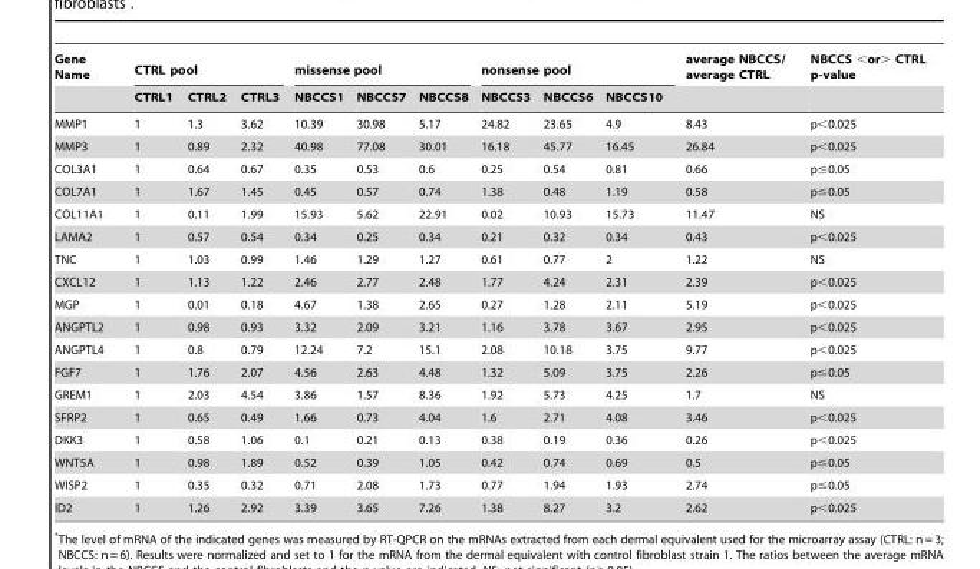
<table><thead><tr><td rowspan="2">Gene Name</td><td colspan="3">CTRL pool</td><td colspan="3">missense pool</td><td colspan="3">nonsense pool</td><td rowspan="2">average NBCCS/ average CTRL</td><td rowspan="2">NBCCS &lt;or&gt; CTRL p-value</td></tr><tr><td>CTRL1</td><td>CTRL2</td><td>CTRL3</td><td>NBCCS1</td><td>NBCCS7</td><td>NBCCS8</td><td>NBCCS3</td><td>NBCCS6</td><td>NBCCS10</td></tr></thead><tbody><tr><td>MMP1</td><td>1</td><td>1.3</td><td>3.62</td><td>10.39</td><td>30.98</td><td>5.17</td><td>24.82</td><td>23.65</td><td>4.9</td><td>8.43</td><td>p&lt;0.025</td></tr><tr><td>MMP3</td><td>1</td><td>0.89</td><td>2.32</td><td>40.98</td><td>77.08</td><td>30.01</td><td>16.18</td><td>45.77</td><td>16.45</td><td>26.84</td><td>p&lt;0.025</td></tr><tr><td>COL3A1</td><td>1</td><td>0.64</td><td>0.67</td><td>0.35</td><td>0.53</td><td>0.6</td><td>0.25</td><td>0.54</td><td>0.81</td><td>0.66</td><td>p≤0.05</td></tr><tr><td>COL7A1</td><td>1</td><td>1.67</td><td>1.45</td><td>0.45</td><td>0.57</td><td>0.74</td><td>1.38</td><td>0.48</td><td>1.19</td><td>0.58</td><td>p≤0.05</td></tr><tr><td>COL11A1</td><td>1</td><td>0.11</td><td>1.99</td><td>15.93</td><td>5.62</td><td>22.91</td><td>0.02</td><td>10.93</td><td>15.73</td><td>11.47</td><td>NS</td></tr><tr><td>LAMA2</td><td>1</td><td>0.57</td><td>0.54</td><td>0.34</td><td>0.25</td><td>0.34</td><td>0.21</td><td>0.32</td><td>0.34</td><td>0.43</td><td>p&lt;0.025</td></tr><tr><td>TNC</td><td>1</td><td>1.03</td><td>0.99</td><td>1.46</td><td>1.29</td><td>1.27</td><td>0.61</td><td>0.77</td><td>2</td><td>1.22</td><td>NS</td></tr><tr><td>CXCL12</td><td>1</td><td>1.13</td><td>1.22</td><td>2.46</td><td>2.77</td><td>2.48</td><td>1.77</td><td>4.24</td><td>2.31</td><td>2.39</td><td>p&lt;0.025</td></tr><tr><td>MGP</td><td>1</td><td>0.01</td><td>0.18</td><td>4.67</td><td>1.38</td><td>2.65</td><td>0.27</td><td>1.28</td><td>2.11</td><td>5.19</td><td>p&lt;0.025</td></tr><tr><td>ANGPTL2</td><td>1</td><td>0.98</td><td>0.93</td><td>3.32</td><td>2.09</td><td>3.21</td><td>1.16</td><td>3.78</td><td>3.67</td><td>2.95</td><td>p&lt;0.025</td></tr><tr><td>ANGPTL4</td><td>1</td><td>0.8</td><td>0.79</td><td>12.24</td><td>7.2</td><td>15.1</td><td>2.08</td><td>10.18</td><td>3.75</td><td>9.77</td><td>p&lt;0.025</td></tr><tr><td>FGF7</td><td>1</td><td>1.76</td><td>2.07</td><td>4.56</td><td>2.63</td><td>4.48</td><td>1.32</td><td>5.09</td><td>3.75</td><td>2.26</td><td>p≤0.05</td></tr><tr><td>GREM1</td><td>1</td><td>2.03</td><td>4.54</td><td>3.86</td><td>1.57</td><td>8.36</td><td>1.92</td><td>5.73</td><td>4.25</td><td>1.7</td><td>NS</td></tr><tr><td>SFRP2</td><td>1</td><td>0.65</td><td>0.49</td><td>1.66</td><td>0.73</td><td>4.04</td><td>1.6</td><td>2.71</td><td>4.08</td><td>3.46</td><td>p&lt;0.025</td></tr><tr><td>DKK3</td><td>1</td><td>0.58</td><td>1.06</td><td>0.1</td><td>0.21</td><td>0.13</td><td>0.38</td><td>0.19</td><td>0.36</td><td>0.26</td><td>p&lt;0.025</td></tr><tr><td>WNT5A</td><td>1</td><td>0.98</td><td>1.89</td><td>0.52</td><td>0.39</td><td>1.05</td><td>0.42</td><td>0.74</td><td>0.69</td><td>0.5</td><td>p≤0.05</td></tr><tr><td>WISP2</td><td>1</td><td>0.35</td><td>0.32</td><td>0.71</td><td>2.08</td><td>1.73</td><td>0.77</td><td>1.94</td><td>1.93</td><td>2.74</td><td>p≤0.05</td></tr><tr><td>ID2</td><td>1</td><td>1.26</td><td>2.92</td><td>3.39</td><td>3.65</td><td>7.26</td><td>1.38</td><td>8.27</td><td>3.2</td><td>2.62</td><td>p&lt;0.025</td></tr></tbody></table>